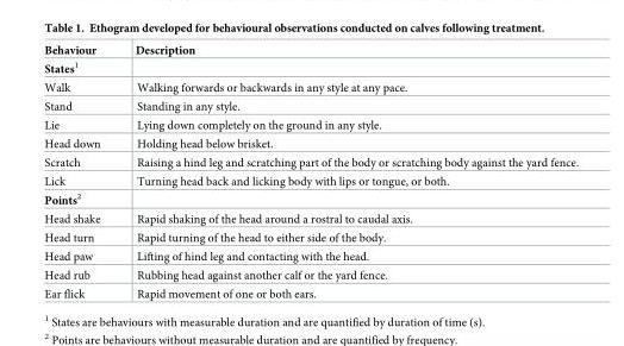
<table><thead><tr><td>Behaviour</td><td>Description</td></tr></thead><tbody><tr><td colspan="2">States<sup>1</sup></td></tr><tr><td>Walk</td><td>Walking forwards or backwards in any style at any pace.</td></tr><tr><td>Stand</td><td>Standing in any style.</td></tr><tr><td>Lie</td><td>Lying down completely on the ground in any style.</td></tr><tr><td>Head down</td><td>Holding head below brisket.</td></tr><tr><td>Scratch</td><td>Raising a hind leg and scratching part of the body or scratching body against the yard fence.</td></tr><tr><td>Lick</td><td>Turning head back and licking body with lips or tongue, or both.</td></tr><tr><td colspan="2">Points<sup>2</sup></td></tr><tr><td>Head shake</td><td>Rapid shaking of the head around a rostral to caudal axis.</td></tr><tr><td>Head turn</td><td>Rapid turning of the head to either side of the body.</td></tr><tr><td>Head paw</td><td>Lifting of hind leg and contacting with the head.</td></tr><tr><td>Head rub</td><td>Rubbing head against another calf or the yard fence.</td></tr><tr><td>Ear flick</td><td>Rapid movement of one or both ears.</td></tr></tbody></table>